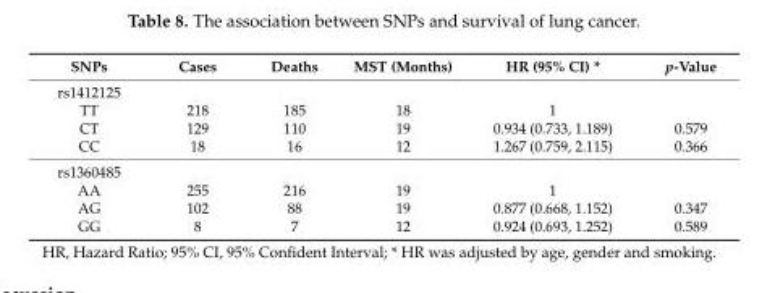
<table><thead><tr><td>SNPs</td><td>Cases</td><td>Deaths</td><td>MST (Months)</td><td>HR (95% CI) *</td><td>p-Value</td></tr></thead><tbody><tr><td colspan="6">rs1412125</td></tr><tr><td>TT</td><td>218</td><td>185</td><td>18</td><td>1</td><td></td></tr><tr><td>CT</td><td>129</td><td>110</td><td>19</td><td>0.934 (0.733, 1.189)</td><td>0.579</td></tr><tr><td>CC</td><td>18</td><td>16</td><td>12</td><td>1.267 (0.759, 2.115)</td><td>0.366</td></tr><tr><td colspan="6">rs1360485</td></tr><tr><td>AA</td><td>255</td><td>216</td><td>19</td><td>1</td><td></td></tr><tr><td>AG</td><td>102</td><td>88</td><td>19</td><td>0.877 (0.668, 1.152)</td><td>0.347</td></tr><tr><td>GG</td><td>8</td><td>7</td><td>12</td><td>0.924 (0.693, 1.252)</td><td>0.589</td></tr></tbody></table>